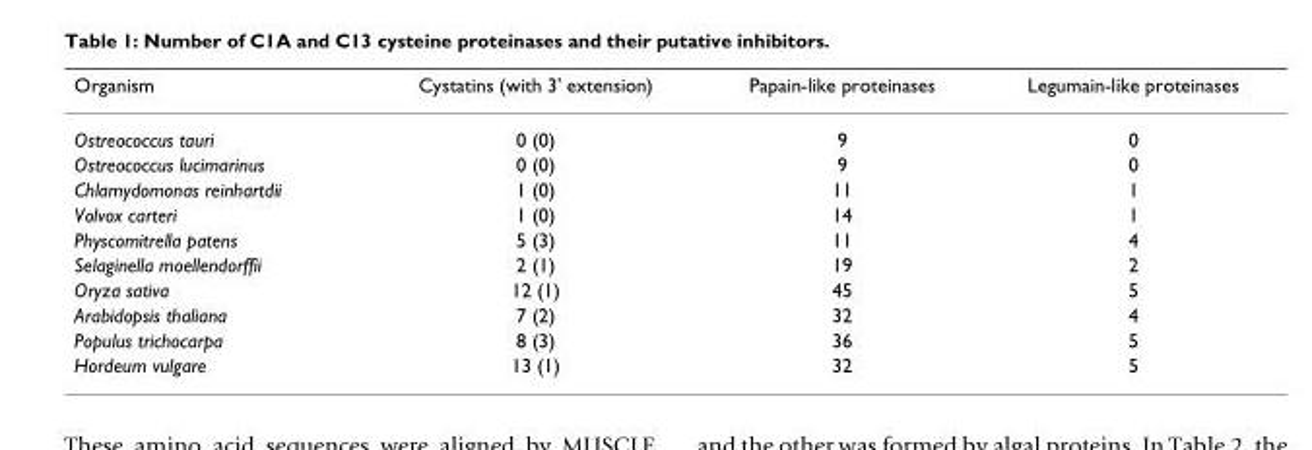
<table><thead><tr><td>Organism</td><td>Cystatins (with 3&#x27; extension)</td><td>Papain-like proteinases</td><td>Legumain-like proteinases</td></tr></thead><tbody><tr><td>Ostreococcus tauri</td><td>0 (0)</td><td>9</td><td>0</td></tr><tr><td>Ostreococcus lucimarinus</td><td>0 (0)</td><td>9</td><td>0</td></tr><tr><td>Chlamydomonas reinhartdii</td><td>1 (0)</td><td>11</td><td>1</td></tr><tr><td>Volvox carteri</td><td>1 (0)</td><td>14</td><td>1</td></tr><tr><td>Physcomitrella patens</td><td>5 (3)</td><td>11</td><td>4</td></tr><tr><td>Selaginella moellendorffii</td><td>2 (1)</td><td>19</td><td>2</td></tr><tr><td>Oryza sativa</td><td>12 (1)</td><td>45</td><td>5</td></tr><tr><td>Arabidopsis thaliana</td><td>7 (2)</td><td>32</td><td>4</td></tr><tr><td>Populus trichocarpa</td><td>8 (3)</td><td>36</td><td>5</td></tr><tr><td>Hordeum vulgare</td><td>13 (1)</td><td>32</td><td>5</td></tr></tbody></table>